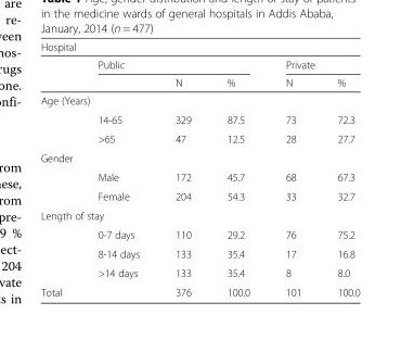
<table><thead><tr><td colspan="6">Hospital</td></tr><tr><td rowspan="2"></td><td colspan="3">Public</td><td colspan="2">Private</td></tr><tr><td></td><td>N</td><td>%</td><td>N</td><td>%</td></tr></thead><tbody><tr><td colspan="6">Age (Years)</td></tr><tr><td></td><td>14-65</td><td>329</td><td>87.5</td><td>73</td><td>72.3</td></tr><tr><td></td><td>&gt;65</td><td>47</td><td>12.5</td><td>28</td><td>27.7</td></tr><tr><td colspan="6">Gender</td></tr><tr><td></td><td>Male</td><td>172</td><td>45.7</td><td>68</td><td>67.3</td></tr><tr><td></td><td>Female</td><td>204</td><td>54.3</td><td>33</td><td>32.7</td></tr><tr><td colspan="6">Length of stay</td></tr><tr><td></td><td>0-7 days</td><td>110</td><td>29.2</td><td>76</td><td>75.2</td></tr><tr><td></td><td>8-14 days</td><td>133</td><td>35.4</td><td>17</td><td>16.8</td></tr><tr><td></td><td>&gt;14 days</td><td>133</td><td>35.4</td><td>8</td><td>8.0</td></tr><tr><td>Total</td><td></td><td>376</td><td>100.0</td><td>101</td><td>100.0</td></tr></tbody></table>